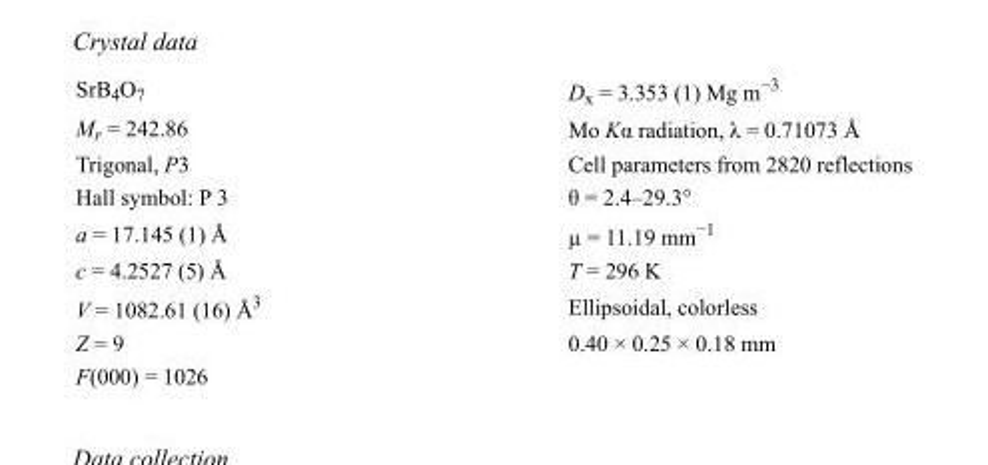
<table><tbody><tr><td>SrB<sub>4</sub>O<sub>7</sub></td><td>D<sub>x</sub> = 3.353 (1) Mg m<sup>−3</sup></td></tr><tr><td>M<sub>r</sub> = 242.86</td><td>Mo Kα radiation, λ = 0.71073 Å</td></tr><tr><td>Trigonal, P3</td><td>Cell parameters from 2820 reflections</td></tr><tr><td>Hall symbol: P 3</td><td>θ = 2.4–29.3°</td></tr><tr><td>a = 17.145 (1) Å</td><td>µ = 11.19 mm<sup>−1</sup></td></tr><tr><td>c = 4.2527 (5) Å</td><td>T = 296 K</td></tr><tr><td>V = 1082.61 (16) Å<sup>3</sup></td><td>Ellipsoidal, colorless</td></tr><tr><td>Z = 9</td><td>0.40 × 0.25 × 0.18 mm</td></tr><tr><td>F(000) = 1026</td><td></td></tr></tbody></table>